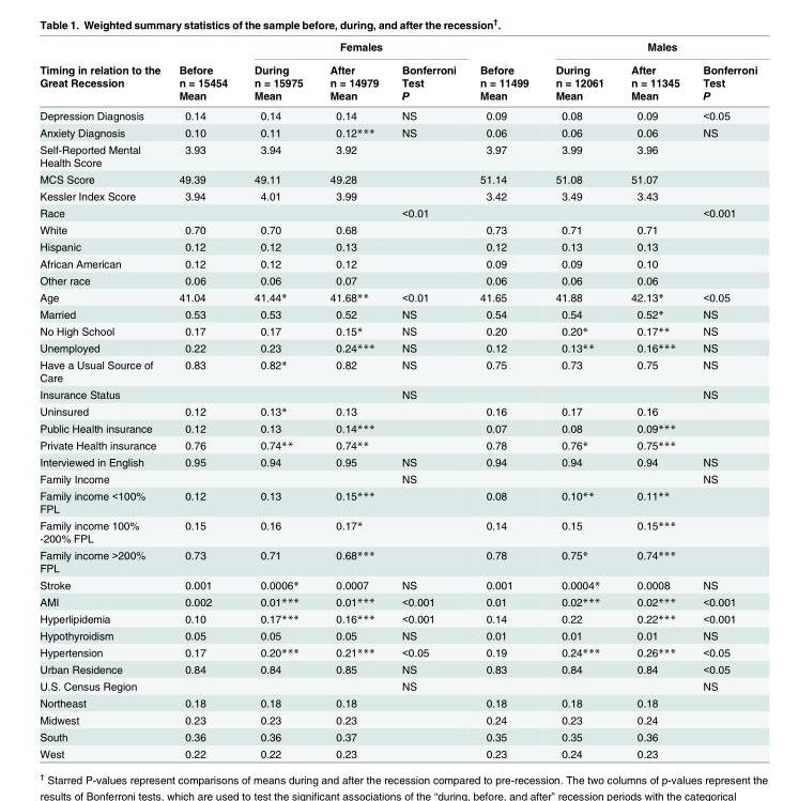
<table><thead><tr><td rowspan="3">Timing in relation to the Great Recession</td><td rowspan="3">Before n = 15454 Mean</td><td colspan="3">Females</td><td rowspan="3">Before n = 11499 Mean</td><td colspan="3">Males</td></tr><tr><td rowspan="2">During n = 15975 Mean</td><td rowspan="2">After n = 14979 Mean</td><td rowspan="2">Bonferroni Test P</td><td rowspan="2">During n = 12061 Mean</td><td rowspan="2">After n = 11345 Mean</td><td rowspan="2">Bonferroni Test P</td></tr><tr></tr></thead><tbody><tr><td>Depression Diagnosis</td><td>0.14</td><td>0.14</td><td>0.14</td><td>NS</td><td>0.09</td><td>0.08</td><td>0.09</td><td>&lt;0.05</td></tr><tr><td>Anxiety Diagnosis</td><td>0.10</td><td>0.11</td><td>0.12***</td><td>NS</td><td>0.06</td><td>0.06</td><td>0.06</td><td>NS</td></tr><tr><td>Self-Reported Mental Health Score</td><td>3.93</td><td>3.94</td><td>3.92</td><td></td><td>3.97</td><td>3.99</td><td>3.96</td><td></td></tr><tr><td>MCS Score</td><td>49.39</td><td>49.11</td><td>49.28</td><td></td><td>51.14</td><td>51.08</td><td>51.07</td><td></td></tr><tr><td>Kessler Index Score</td><td>3.94</td><td>4.01</td><td>3.99</td><td></td><td>3.42</td><td>3.49</td><td>3.43</td><td></td></tr><tr><td>Race</td><td></td><td></td><td></td><td>&lt;0.01</td><td></td><td></td><td></td><td>&lt;0.001</td></tr><tr><td>White</td><td>0.70</td><td>0.70</td><td>0.68</td><td></td><td>0.73</td><td>0.71</td><td>0.71</td><td></td></tr><tr><td>Hispanic</td><td>0.12</td><td>0.12</td><td>0.13</td><td></td><td>0.12</td><td>0.13</td><td>0.13</td><td></td></tr><tr><td>African American</td><td>0.12</td><td>0.12</td><td>0.12</td><td></td><td>0.09</td><td>0.09</td><td>0.10</td><td></td></tr><tr><td>Other race</td><td>0.06</td><td>0.06</td><td>0.07</td><td></td><td>0.06</td><td>0.06</td><td>0.06</td><td></td></tr><tr><td>Age</td><td>41.04</td><td>41.44*</td><td>41.68**</td><td>&lt;0.01</td><td>41.65</td><td>41.88</td><td>42.13*</td><td>&lt;0.05</td></tr><tr><td>Married</td><td>0.53</td><td>0.53</td><td>0.52</td><td>NS</td><td>0.54</td><td>0.54</td><td>0.52*</td><td>NS</td></tr><tr><td>No High School</td><td>0.17</td><td>0.17</td><td>0.15*</td><td>NS</td><td>0.20</td><td>0.20*</td><td>0.17**</td><td>NS</td></tr><tr><td>Unemployed</td><td>0.22</td><td>0.23</td><td>0.24***</td><td>NS</td><td>0.12</td><td>0.13**</td><td>0.16***</td><td>NS</td></tr><tr><td>Have a Usual Source of Care</td><td>0.83</td><td>0.82*</td><td>0.82</td><td>NS</td><td>0.75</td><td>0.73</td><td>0.75</td><td>NS</td></tr><tr><td>Insurance Status</td><td></td><td></td><td></td><td>NS</td><td></td><td></td><td></td><td>NS</td></tr><tr><td>Uninsured</td><td>0.12</td><td>0.13*</td><td>0.13</td><td></td><td>0.16</td><td>0.17</td><td>0.16</td><td></td></tr><tr><td>Public Health insurance</td><td>0.12</td><td>0.13</td><td>0.14***</td><td></td><td>0.07</td><td>0.08</td><td>0.09***</td><td></td></tr><tr><td>Private Health insurance</td><td>0.76</td><td>0.74**</td><td>0.74**</td><td></td><td>0.78</td><td>0.76*</td><td>0.75***</td><td></td></tr><tr><td>Interviewed in English</td><td>0.95</td><td>0.94</td><td>0.95</td><td>NS</td><td>0.94</td><td>0.94</td><td>0.94</td><td>NS</td></tr><tr><td>Family Income</td><td></td><td></td><td></td><td>NS</td><td></td><td></td><td></td><td>NS</td></tr><tr><td>Family income &lt;100% FPL</td><td>0.12</td><td>0.13</td><td>0.15***</td><td></td><td>0.08</td><td>0.10**</td><td>0.11**</td><td></td></tr><tr><td>Family income 100% -200% FPL</td><td>0.15</td><td>0.16</td><td>0.17*</td><td></td><td>0.14</td><td>0.15</td><td>0.15***</td><td></td></tr><tr><td>Family income &gt;200% FPL</td><td>0.73</td><td>0.71</td><td>0.68***</td><td></td><td>0.78</td><td>0.75*</td><td>0.74***</td><td></td></tr><tr><td>Stroke</td><td>0.001</td><td>0.0006*</td><td>0.0007</td><td>NS</td><td>0.001</td><td>0.0004*</td><td>0.0008</td><td>NS</td></tr><tr><td>AMI</td><td>0.002</td><td>0.01***</td><td>0.01***</td><td>&lt;0.001</td><td>0.01</td><td>0.02***</td><td>0.02***</td><td>&lt;0.001</td></tr><tr><td>Hyperlipidemia</td><td>0.10</td><td>0.17***</td><td>0.16***</td><td>&lt;0.001</td><td>0.14</td><td>0.22</td><td>0.22***</td><td>&lt;0.001</td></tr><tr><td>Hypothyroidism</td><td>0.05</td><td>0.05</td><td>0.05</td><td>NS</td><td>0.01</td><td>0.01</td><td>0.01</td><td>NS</td></tr><tr><td>Hypertension</td><td>0.17</td><td>0.20***</td><td>0.21***</td><td>&lt;0.05</td><td>0.19</td><td>0.24***</td><td>0.26***</td><td>&lt;0.05</td></tr><tr><td>Urban Residence</td><td>0.84</td><td>0.84</td><td>0.85</td><td>NS</td><td>0.83</td><td>0.84</td><td>0.84</td><td>&lt;0.05</td></tr><tr><td>U.S. Census Region</td><td></td><td></td><td></td><td>NS</td><td></td><td></td><td></td><td>NS</td></tr><tr><td>Northeast</td><td>0.18</td><td>0.18</td><td>0.18</td><td></td><td>0.18</td><td>0.18</td><td>0.18</td><td></td></tr><tr><td>Midwest</td><td>0.23</td><td>0.23</td><td>0.23</td><td></td><td>0.24</td><td>0.23</td><td>0.24</td><td></td></tr><tr><td>South</td><td>0.36</td><td>0.36</td><td>0.37</td><td></td><td>0.35</td><td>0.35</td><td>0.36</td><td></td></tr><tr><td>West</td><td>0.22</td><td>0.22</td><td>0.23</td><td></td><td>0.23</td><td>0.24</td><td>0.23</td><td></td></tr></tbody></table>